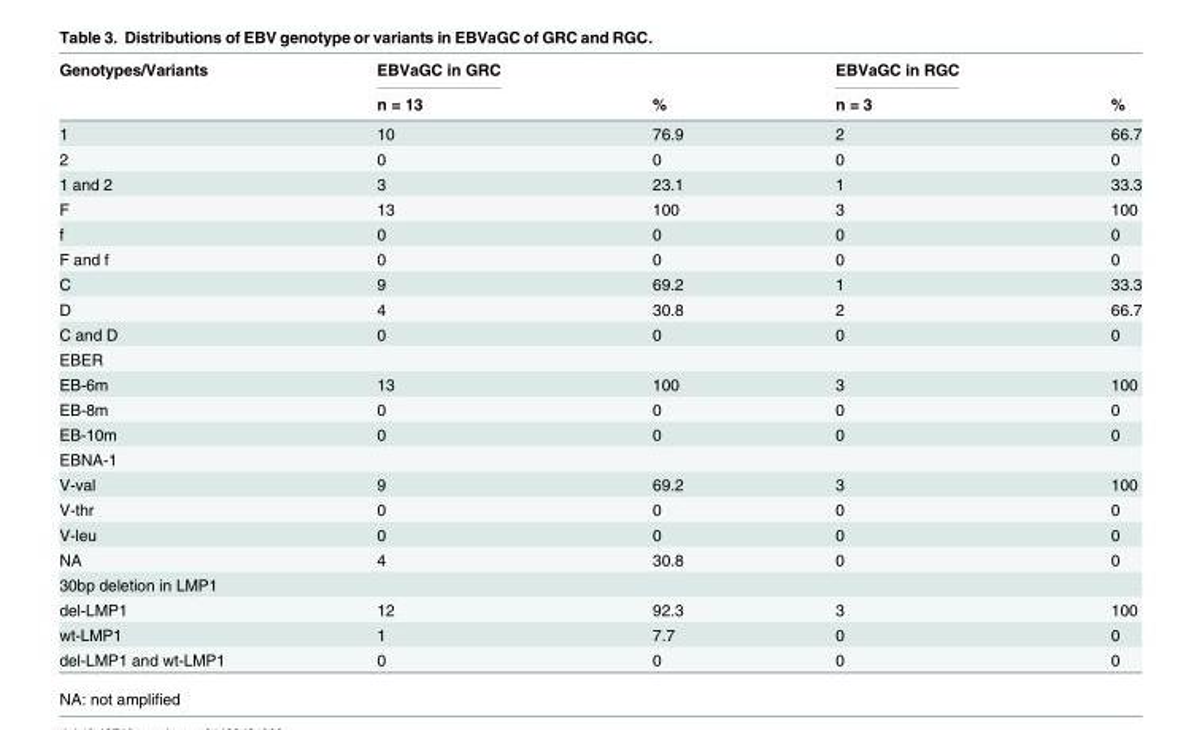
<table><thead><tr><td rowspan="2">Genotypes/Variants</td><td rowspan="2">EBVaGC in GRC n = 13</td><td rowspan="2">%</td><td rowspan="2">EBVaGC in RGC n = 3</td><td rowspan="2">%</td></tr><tr></tr></thead><tbody><tr><td>1</td><td>10</td><td>76.9</td><td>2</td><td>66.7</td></tr><tr><td>2</td><td>0</td><td>0</td><td>0</td><td>0</td></tr><tr><td>1 and 2</td><td>3</td><td>23.1</td><td>1</td><td>33.3</td></tr><tr><td>F</td><td>13</td><td>100</td><td>3</td><td>100</td></tr><tr><td>f</td><td>0</td><td>0</td><td>0</td><td>0</td></tr><tr><td>F and f</td><td>0</td><td>0</td><td>0</td><td>0</td></tr><tr><td>C</td><td>9</td><td>69.2</td><td>1</td><td>33.3</td></tr><tr><td>D</td><td>4</td><td>30.8</td><td>2</td><td>66.7</td></tr><tr><td>C and D</td><td>0</td><td>0</td><td>0</td><td>0</td></tr><tr><td colspan="5">EBER</td></tr><tr><td>EB-6m</td><td>13</td><td>100</td><td>3</td><td>100</td></tr><tr><td>EB-8m</td><td>0</td><td>0</td><td>0</td><td>0</td></tr><tr><td>EB-10m</td><td>0</td><td>0</td><td>0</td><td>0</td></tr><tr><td colspan="5">EBNA-1</td></tr><tr><td>V-val</td><td>9</td><td>69.2</td><td>3</td><td>100</td></tr><tr><td>V-thr</td><td>0</td><td>0</td><td>0</td><td>0</td></tr><tr><td>V-leu</td><td>0</td><td>0</td><td>0</td><td>0</td></tr><tr><td>NA</td><td>4</td><td>30.8</td><td>0</td><td>0</td></tr><tr><td colspan="5">30bp deletion in LMP1</td></tr><tr><td>del-LMP1</td><td>12</td><td>92.3</td><td>3</td><td>100</td></tr><tr><td>wt-LMP1</td><td>1</td><td>7.7</td><td>0</td><td>0</td></tr><tr><td>del-LMP1 and wt-LMP1</td><td>0</td><td>0</td><td>0</td><td>0</td></tr></tbody></table>